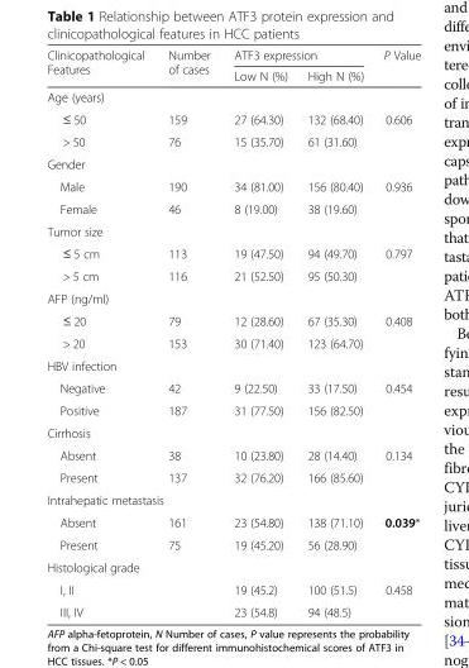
<table><thead><tr><td rowspan="2">Clinicopathological Features</td><td rowspan="2">Number of cases</td><td colspan="2">ATF3 expression</td><td rowspan="2">P Value</td></tr><tr><td>Low N (%)</td><td>High N (%)</td></tr></thead><tbody><tr><td colspan="5">Age (years)</td></tr><tr><td>≤ 50</td><td>159</td><td>27 (64.30)</td><td>132 (68.40)</td><td>0.606</td></tr><tr><td>&gt; 50</td><td>76</td><td>15 (35.70)</td><td>61 (31.60)</td><td></td></tr><tr><td colspan="5">Gender</td></tr><tr><td>Male</td><td>190</td><td>34 (81.00)</td><td>156 (80.40)</td><td>0.936</td></tr><tr><td>Female</td><td>46</td><td>8 (19.00)</td><td>38 (19.60)</td><td></td></tr><tr><td colspan="5">Tumor size</td></tr><tr><td>≤ 5 cm</td><td>113</td><td>19 (47.50)</td><td>94 (49.70)</td><td>0.797</td></tr><tr><td>&gt; 5 cm</td><td>116</td><td>21 (52.50)</td><td>95 (50.30)</td><td></td></tr><tr><td colspan="5">AFP (ng/ml)</td></tr><tr><td>≤ 20</td><td>79</td><td>12 (28.60)</td><td>67 (35.30)</td><td>0.408</td></tr><tr><td>&gt; 20</td><td>153</td><td>30 (71.40)</td><td>123 (64.70)</td><td></td></tr><tr><td colspan="5">HBV infection</td></tr><tr><td>Negative</td><td>42</td><td>9 (22.50)</td><td>33 (17.50)</td><td>0.454</td></tr><tr><td>Positive</td><td>187</td><td>31 (77.50)</td><td>156 (82.50)</td><td></td></tr><tr><td colspan="5">Cirrhosis</td></tr><tr><td>Absent</td><td>38</td><td>10 (23.80)</td><td>28 (14.40)</td><td>0.134</td></tr><tr><td>Present</td><td>137</td><td>32 (76.20)</td><td>166 (85.60)</td><td></td></tr><tr><td colspan="5">Intrahepatic metastasis</td></tr><tr><td>Absent</td><td>161</td><td>23 (54.80)</td><td>138 (71.10)</td><td>0.039*</td></tr><tr><td>Present</td><td>75</td><td>19 (45.20)</td><td>56 (28.90)</td><td></td></tr><tr><td colspan="5">Histological grade</td></tr><tr><td>I, II</td><td></td><td>19 (45.2)</td><td>100 (51.5)</td><td>0.458</td></tr><tr><td>III, IV</td><td></td><td>23 (54.8)</td><td>94 (48.5)</td><td></td></tr></tbody></table>